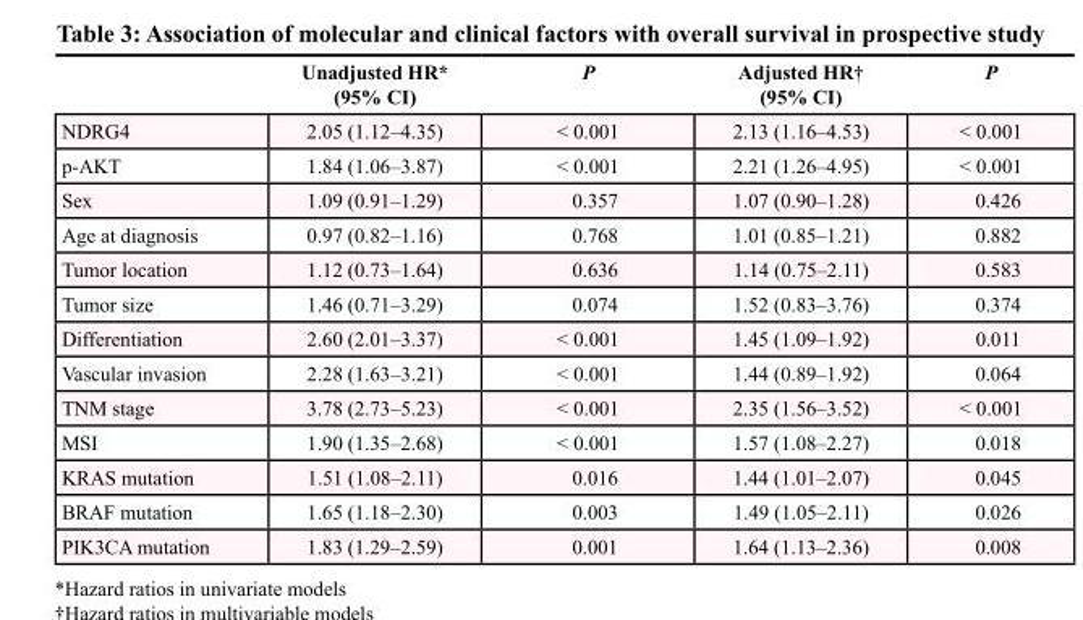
<table><thead><tr><td></td><td>Unadjusted HR* (95% CI)</td><td>P</td><td>Adjusted HR† (95% CI)</td><td>P</td></tr></thead><tbody><tr><td>NDRG4</td><td>2.05 (1.12–4.35)</td><td>&lt; 0.001</td><td>2.13 (1.16–4.53)</td><td>&lt; 0.001</td></tr><tr><td>p-AKT</td><td>1.84 (1.06–3.87)</td><td>&lt; 0.001</td><td>2.21 (1.26–4.95)</td><td>&lt; 0.001</td></tr><tr><td>Sex</td><td>1.09 (0.91–1.29)</td><td>0.357</td><td>1.07 (0.90–1.28)</td><td>0.426</td></tr><tr><td>Age at diagnosis</td><td>0.97 (0.82–1.16)</td><td>0.768</td><td>1.01 (0.85–1.21)</td><td>0.882</td></tr><tr><td>Tumor location</td><td>1.12 (0.73–1.64)</td><td>0.636</td><td>1.14 (0.75–2.11)</td><td>0.583</td></tr><tr><td>Tumor size</td><td>1.46 (0.71–3.29)</td><td>0.074</td><td>1.52 (0.83–3.76)</td><td>0.374</td></tr><tr><td>Differentiation</td><td>2.60 (2.01–3.37)</td><td>&lt; 0.001</td><td>1.45 (1.09–1.92)</td><td>0.011</td></tr><tr><td>Vascular invasion</td><td>2.28 (1.63–3.21)</td><td>&lt; 0.001</td><td>1.44 (0.89–1.92)</td><td>0.064</td></tr><tr><td>TNM stage</td><td>3.78 (2.73–5.23)</td><td>&lt; 0.001</td><td>2.35 (1.56–3.52)</td><td>&lt; 0.001</td></tr><tr><td>MSI</td><td>1.90 (1.35–2.68)</td><td>&lt; 0.001</td><td>1.57 (1.08–2.27)</td><td>0.018</td></tr><tr><td>KRAS mutation</td><td>1.51 (1.08–2.11)</td><td>0.016</td><td>1.44 (1.01–2.07)</td><td>0.045</td></tr><tr><td>BRAF mutation</td><td>1.65 (1.18–2.30)</td><td>0.003</td><td>1.49 (1.05–2.11)</td><td>0.026</td></tr><tr><td>PIK3CA mutation</td><td>1.83 (1.29–2.59)</td><td>0.001</td><td>1.64 (1.13–2.36)</td><td>0.008</td></tr></tbody></table>